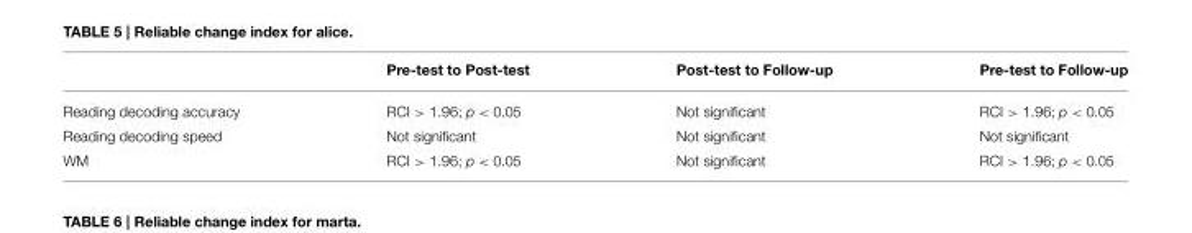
<table><thead><tr><td></td><td>Pre-test to Post-test</td><td>Post-test to Follow-up</td><td>Pre-test to Follow-up</td></tr></thead><tbody><tr><td>Reading decoding accuracy</td><td>RCI &gt; 1.96; p &lt; 0.05</td><td>Not significant</td><td>RCI &gt; 1.96; p &lt; 0.05</td></tr><tr><td>Reading decoding speed</td><td>Not significant</td><td>Not significant</td><td>Not significant</td></tr><tr><td>WM</td><td>RCI &gt; 1.96; p &lt; 0.05</td><td>Not significant</td><td>RCI &gt; 1.96; p &lt; 0.05</td></tr></tbody></table>